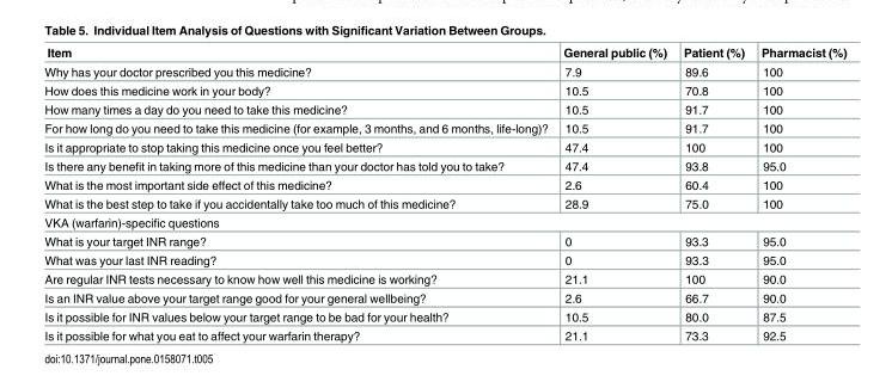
<table><thead><tr><td>Item</td><td>General public (%)</td><td>Patient (%)</td><td>Pharmacist (%)</td></tr></thead><tbody><tr><td>Why has your doctor prescribed you this medicine?</td><td>7.9</td><td>89.6</td><td>100</td></tr><tr><td>How does this medicine work in your body?</td><td>10.5</td><td>70.8</td><td>100</td></tr><tr><td>How many times a day do you need to take this medicine?</td><td>10.5</td><td>91.7</td><td>100</td></tr><tr><td>For how long do you need to take this medicine (for example, 3 months, and 6 months, life-long)?</td><td>10.5</td><td>91.7</td><td>100</td></tr><tr><td>Is it appropriate to stop taking this medicine once you feel better?</td><td>47.4</td><td>100</td><td>100</td></tr><tr><td>Is there any benefit in taking more of this medicine than your doctor has told you to take?</td><td>47.4</td><td>93.8</td><td>95.0</td></tr><tr><td>What is the most important side effect of this medicine?</td><td>2.6</td><td>60.4</td><td>100</td></tr><tr><td>What is the best step to take if you accidentally take too much of this medicine?</td><td>28.9</td><td>75.0</td><td>100</td></tr><tr><td colspan="4">VKA (warfarin)-specific questions</td></tr><tr><td>What is your target INR range?</td><td>0</td><td>93.3</td><td>95.0</td></tr><tr><td>What was your last INR reading?</td><td>0</td><td>93.3</td><td>95.0</td></tr><tr><td>Are regular INR tests necessary to know how well this medicine is working?</td><td>21.1</td><td>100</td><td>90.0</td></tr><tr><td>Is an INR value above your target range good for your general wellbeing?</td><td>2.6</td><td>66.7</td><td>90.0</td></tr><tr><td>Is it possible for INR values below your target range to be bad for your health?</td><td>10.5</td><td>80.0</td><td>87.5</td></tr><tr><td>Is it possible for what you eat to affect your warfarin therapy?</td><td>21.1</td><td>73.3</td><td>92.5</td></tr></tbody></table>